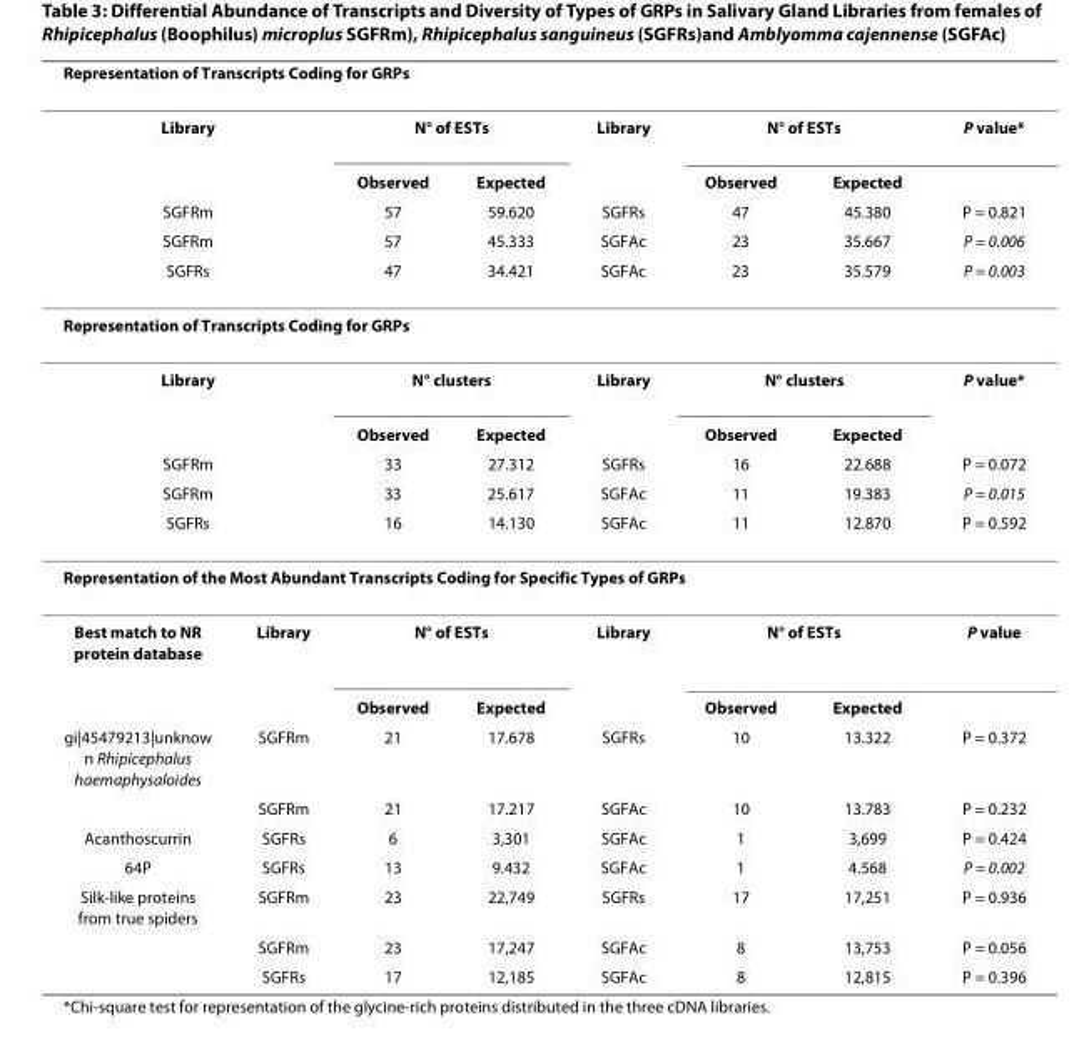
<table><thead><tr><td colspan="8">Representation of Transcripts Coding for GRPs</td></tr><tr><td colspan="2">Library</td><td colspan="2">N° of ESTs</td><td rowspan="2">Library</td><td colspan="2">N° of ESTs</td><td rowspan="2">P value*</td></tr><tr><td></td><td></td><td>Observed</td><td>Expected</td><td>Observed</td><td>Expected</td></tr></thead><tbody><tr><td colspan="2">SGFRm</td><td>57</td><td>59.620</td><td>SGFRs</td><td>47</td><td>45.380</td><td>P = 0.821</td></tr><tr><td colspan="2">SGFRm</td><td>57</td><td>45.333</td><td>SGFAc</td><td>23</td><td>35.667</td><td>P = 0.006</td></tr><tr><td colspan="2">SGFRs</td><td>47</td><td>34.421</td><td>SGFAc</td><td>23</td><td>35.579</td><td>P = 0.003</td></tr><tr><td colspan="8">Representation of Transcripts Coding for GRPs</td></tr><tr><td colspan="2">Library</td><td colspan="2">N° clusters</td><td>Library</td><td colspan="2">N° clusters</td><td>P value*</td></tr><tr><td></td><td></td><td>Observed</td><td>Expected</td><td></td><td>Observed</td><td>Expected</td><td></td></tr><tr><td colspan="2">SGFRm</td><td>33</td><td>27.312</td><td>SGFRs</td><td>16</td><td>22.688</td><td>P = 0.072</td></tr><tr><td colspan="2">SGFRm</td><td>33</td><td>25.617</td><td>SGFAc</td><td>11</td><td>19.383</td><td>P = 0.015</td></tr><tr><td colspan="2">SGFRs</td><td>16</td><td>14.130</td><td>SGFAc</td><td>11</td><td>12.870</td><td>P = 0.592</td></tr><tr><td colspan="8">Representation of the Most Abundant Transcripts Coding for Specific Types of GRPs</td></tr><tr><td rowspan="2">Best match to NR protein database</td><td>Library</td><td colspan="2">N° of ESTs</td><td>Library</td><td colspan="2">N° of ESTs</td><td>P value</td></tr><tr><td></td><td>Observed</td><td>Expected</td><td></td><td>Observed</td><td>Expected</td><td></td></tr><tr><td rowspan="2">gi|45479213|unknow n Rhipicephalus haemaphysaloides</td><td>SGFRm</td><td>21</td><td>17.678</td><td>SGFRs</td><td>10</td><td>13.322</td><td>P = 0.372</td></tr><tr><td>SGFRm</td><td>21</td><td>17.217</td><td>SGFAc</td><td>10</td><td>13.783</td><td>P = 0.232</td></tr><tr><td>Acanthoscurrin</td><td>SGFRs</td><td>6</td><td>3,301</td><td>SGFAc</td><td>1</td><td>3,699</td><td>P = 0.424</td></tr><tr><td>64P</td><td>SGFRs</td><td>13</td><td>9.432</td><td>SGFAc</td><td>1</td><td>4.568</td><td>P = 0.002</td></tr><tr><td rowspan="3">Silk-like proteins from true spiders</td><td>SGFRm</td><td>23</td><td>22,749</td><td>SGFRs</td><td>17</td><td>17,251</td><td>P = 0.936</td></tr><tr><td>SGFRm</td><td>23</td><td>17,247</td><td>SGFAc</td><td>8</td><td>13,753</td><td>P = 0.056</td></tr><tr><td>SGFRs</td><td>17</td><td>12,185</td><td>SGFAc</td><td>8</td><td>12,815</td><td>P = 0.396</td></tr></tbody></table>